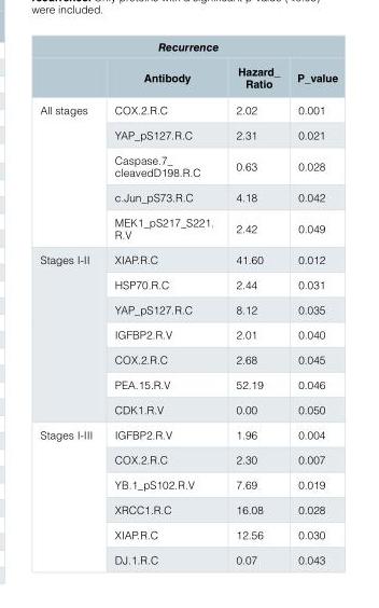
<table><thead><tr><td colspan="4">Recurrence</td></tr><tr><td></td><td>Antibody</td><td>Hazard_ Ratio</td><td>P_value</td></tr></thead><tbody><tr><td rowspan="5">All stages</td><td>COX.2.R.C</td><td>2.02</td><td>0.001</td></tr><tr><td>YAP_pS127.R.C</td><td>2.31</td><td>0.021</td></tr><tr><td>Caspase.7_ cleavedD198.R.C</td><td>0.63</td><td>0.028</td></tr><tr><td>c.Jun_pS73.R.C</td><td>4.18</td><td>0.042</td></tr><tr><td>MEK1_pS217_S221. R.V</td><td>2.42</td><td>0.049</td></tr><tr><td rowspan="7">Stages I-II</td><td>XIAP.R.C</td><td>41.60</td><td>0.012</td></tr><tr><td>HSP70.R.C</td><td>2.44</td><td>0.031</td></tr><tr><td>YAP_pS127.R.C</td><td>8.12</td><td>0.035</td></tr><tr><td>IGFBP2.R.V</td><td>2.01</td><td>0.040</td></tr><tr><td>COX.2.R.C</td><td>2.68</td><td>0.045</td></tr><tr><td>PEA.15.R.V</td><td>52.19</td><td>0.046</td></tr><tr><td>CDK1.R.V</td><td>0.00</td><td>0.050</td></tr><tr><td rowspan="6">Stages I-III</td><td>IGFBP2.R.V</td><td>1.96</td><td>0.004</td></tr><tr><td>COX.2.R.C</td><td>2.30</td><td>0.007</td></tr><tr><td>YB.1_pS102.R.V</td><td>7.69</td><td>0.019</td></tr><tr><td>XRCC1.R.C</td><td>16.08</td><td>0.028</td></tr><tr><td>XIAP.R.C</td><td>12.56</td><td>0.030</td></tr><tr><td>DJ.1.R.C</td><td>0.07</td><td>0.043</td></tr></tbody></table>